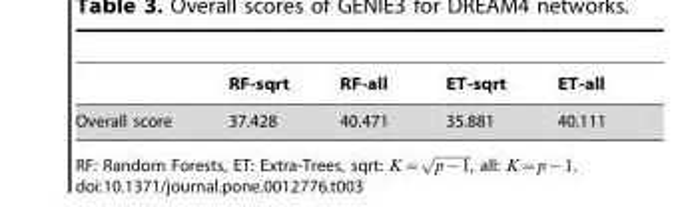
<table><thead><tr><td></td><td>RF-sqrt</td><td>RF-all</td><td>ET-sqrt</td><td>ET-all</td></tr></thead><tbody><tr><td>Overall score</td><td>37.428</td><td>40.471</td><td>35.881</td><td>40.111</td></tr></tbody></table>